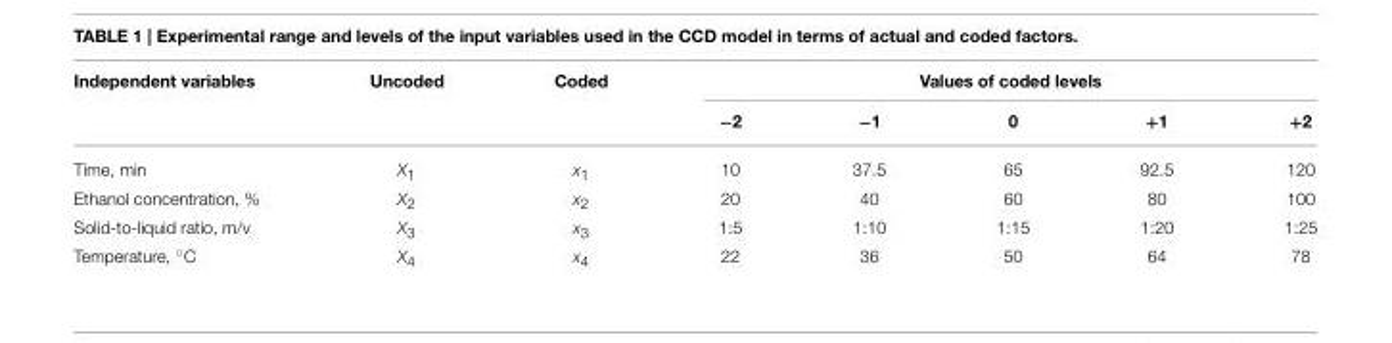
<table><thead><tr><td rowspan="2">Independent variables</td><td rowspan="2">Uncoded</td><td rowspan="2">Coded</td><td colspan="5">Values of coded levels</td></tr><tr><td>−2</td><td>−1</td><td>0</td><td>+1</td><td>+2</td></tr></thead><tbody><tr><td>Time, min</td><td>X<sub>1</sub></td><td>x<sub>1</sub></td><td>10</td><td>37.5</td><td>65</td><td>92.5</td><td>120</td></tr><tr><td>Ethanol concentration, %</td><td>X<sub>2</sub></td><td>x<sub>2</sub></td><td>20</td><td>40</td><td>60</td><td>80</td><td>100</td></tr><tr><td>Solid-to-liquid ratio, m/v</td><td>X<sub>3</sub></td><td>x<sub>3</sub></td><td>1:5</td><td>1:10</td><td>1:15</td><td>1:20</td><td>1:25</td></tr><tr><td>Temperature, ◦C</td><td>X4</td><td>x<sub>4</sub></td><td>22</td><td>36</td><td>50</td><td>64</td><td>78</td></tr></tbody></table>